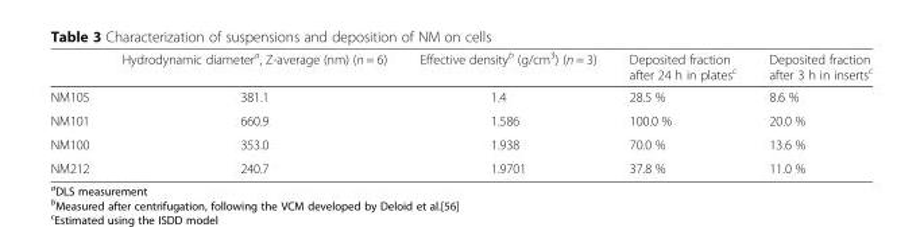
<table><thead><tr><td></td><td>Hydrodynamic diameter<sup>a</sup>, Z-average (nm) (n = 6)</td><td>Effective density<sup>b</sup> (g/cm<sup>3</sup>) (n = 3)</td><td>Deposited fraction after 24 h in plates<sup>c</sup></td><td>Deposited fraction after 3 h in inserts<sup>c</sup></td></tr></thead><tbody><tr><td>NM105</td><td>381.1</td><td>1.4</td><td>28.5 %</td><td>8.6 %</td></tr><tr><td>NM101</td><td>660.9</td><td>1.586</td><td>100.0 %</td><td>20.0 %</td></tr><tr><td>NM100</td><td>353.0</td><td>1.938</td><td>70.0 %</td><td>13.6 %</td></tr><tr><td>NM212</td><td>240.7</td><td>1.9701</td><td>37.8 %</td><td>11.0 %</td></tr></tbody></table>